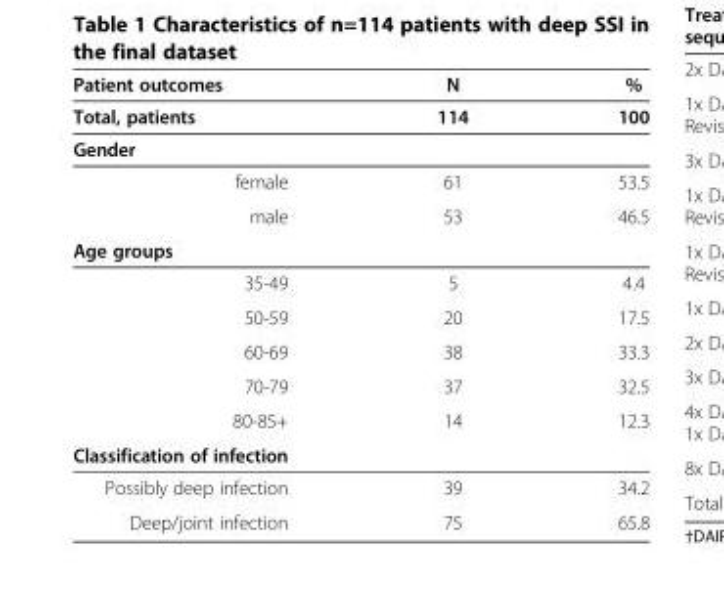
<table><thead><tr><td rowspan="2">Patient outcomes Total, patients</td><td rowspan="2">N 114</td><td rowspan="2">% 100</td></tr><tr></tr></thead><tbody><tr><td colspan="3">Gender</td></tr><tr><td>female</td><td>61</td><td>53.5</td></tr><tr><td>male</td><td>53</td><td>46.5</td></tr><tr><td colspan="3">Age groups</td></tr><tr><td>35-49</td><td>5</td><td>4.4</td></tr><tr><td>50-59</td><td>20</td><td>17.5</td></tr><tr><td>60-69</td><td>38</td><td>33.3</td></tr><tr><td>70-79</td><td>37</td><td>32.5</td></tr><tr><td>80-85+</td><td>14</td><td>12.3</td></tr><tr><td colspan="3">Classification of infection</td></tr><tr><td>Possibly deep infection</td><td>39</td><td>34.2</td></tr><tr><td>Deep/joint infection</td><td>75</td><td>65.8</td></tr></tbody></table>